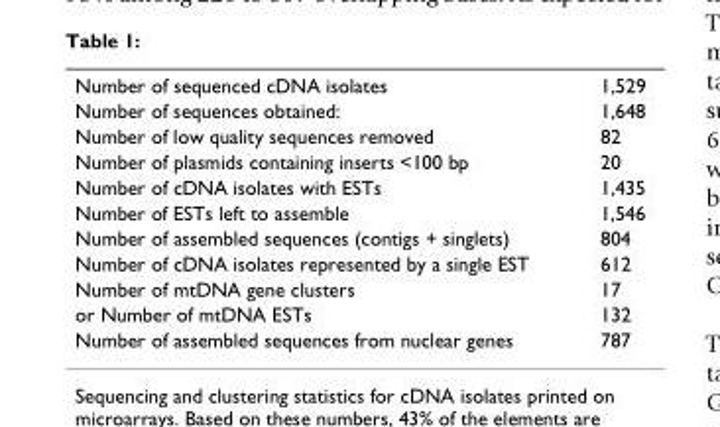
<table><tbody><tr><td>Number of sequenced cDNA isolates</td><td>1,529</td></tr><tr><td>Number of sequences obtained:</td><td>1,648</td></tr><tr><td>Number of low quality sequences removed</td><td>82</td></tr><tr><td>Number of plasmids containing inserts &lt;100 bp</td><td>20</td></tr><tr><td>Number of cDNA isolates with ESTs</td><td>1,435</td></tr><tr><td>Number of ESTs left to assemble</td><td>1,546</td></tr><tr><td>Number of assembled sequences (contigs + singlets)</td><td>804</td></tr><tr><td>Number of cDNA isolates represented by a single EST</td><td>612</td></tr><tr><td>Number of mtDNA gene clusters</td><td>17</td></tr><tr><td>or Number of mtDNA ESTs</td><td>132</td></tr><tr><td>Number of assembled sequences from nuclear genes</td><td>787</td></tr></tbody></table>